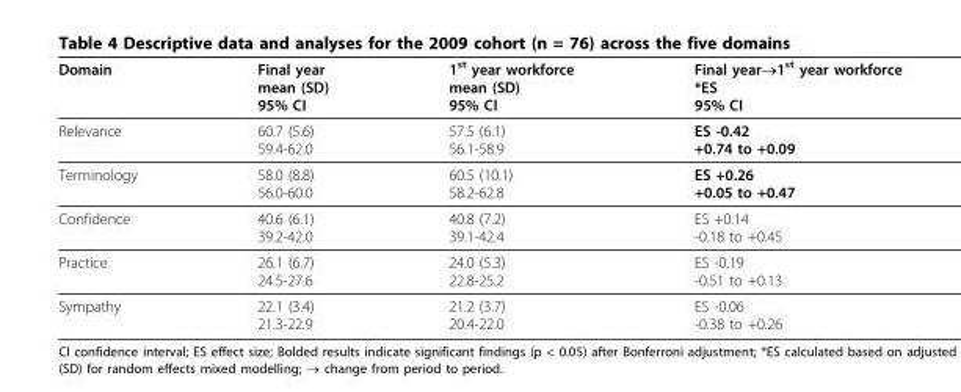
<table><thead><tr><td>Domain</td><td>Final year mean (SD) 95% CI</td><td>1<sup>st</sup> year workforce mean (SD) 95% CI</td><td>Final year→1<sup>st</sup> year workforce *ES 95% CI</td></tr></thead><tbody><tr><td>Relevance</td><td>60.7 (5.6) 59.4-62.0</td><td>57.5 (6.1) 56.1-58.9</td><td>ES -0.42 +0.74 to +0.09</td></tr><tr><td>Terminology</td><td>58.0 (8.8) 56.0-60.0</td><td>60.5 (10.1) 58.2-62.8</td><td>ES +0.26 +0.05 to +0.47</td></tr><tr><td>Confidence</td><td>40.6 (6.1) 39.2-42.0</td><td>40.8 (7.2) 39.1-42.4</td><td>ES +0.14 -0.18 to +0.45</td></tr><tr><td>Practice</td><td>26.1 (6.7) 24.5-27.6</td><td>24.0 (5.3) 22.8-25.2</td><td>ES -0.19 -0.51 to +0.13</td></tr><tr><td>Sympathy</td><td>22.1 (3.4) 21.3-22.9</td><td>21.2 (3.7) 20.4-22.0</td><td>ES -0.06 -0.38 to +0.26</td></tr></tbody></table>